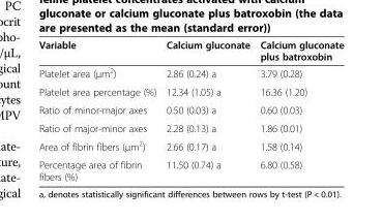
<table><thead><tr><td>Variable</td><td>Calcium gluconate</td><td>Calcium gluconate plus batroxobin</td></tr></thead><tbody><tr><td>Platelet area (μm<sup>2</sup>)</td><td>2.86 (0.24) a</td><td>3.79 (0.28)</td></tr><tr><td>Platelet area percentage (%)</td><td>12.34 (1.05) a</td><td>16.36 (1.20)</td></tr><tr><td>Ratio of minor-major axes</td><td>0.50 (0.03) a</td><td>0.60 (0.03)</td></tr><tr><td>Ratio of major-minor axes</td><td>2.28 (0.13) a</td><td>1.86 (0.01)</td></tr><tr><td>Area of fibrin fibers (μm<sup>2</sup>)</td><td>2.66 (0.17) a</td><td>1.58 (0.14)</td></tr><tr><td>Percentage area of fibrin fibers (%)</td><td>11.50 (0.74) a</td><td>6.80 (0.58)</td></tr></tbody></table>